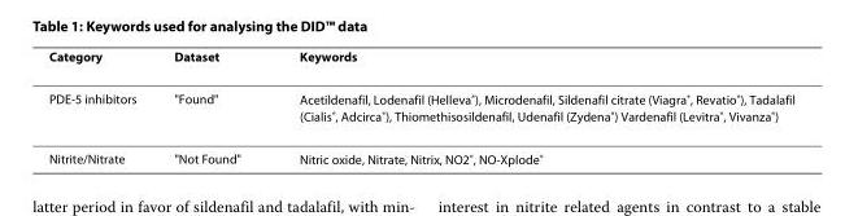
<table><thead><tr><td>Category</td><td>Dataset</td><td>Keywords</td></tr></thead><tbody><tr><td>PDE-5 inhibitors</td><td>&quot;Found&quot;</td><td>Acetildenafil, Lodenafil (Helleva<sup>®</sup>), Microdenafil, Sildenafil citrate (Viagra<sup>®</sup>, Revatio<sup>®</sup>), Tadalafil (Cialis<sup>®</sup>, Adcirca<sup>®</sup>), Thiomethisosildenafil, Udenafil (Zydena<sup>®</sup>) Vardenafil (Levitra<sup>®</sup>, Vivanza<sup>®</sup>)</td></tr><tr><td>Nitrite/Nitrate</td><td>&quot;Not Found&quot;</td><td>Nitric oxide, Nitrate, Nitrix, NO2<sup>®</sup>, NO-Xplode<sup>®</sup></td></tr></tbody></table>